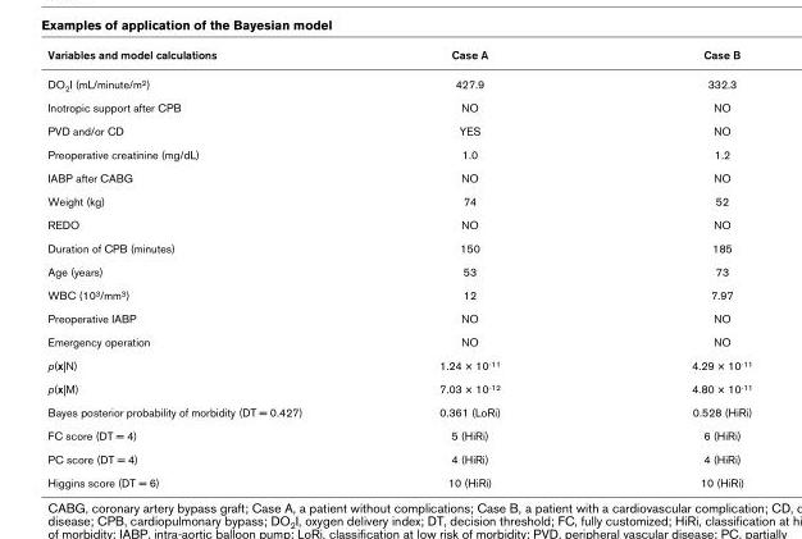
<table><thead><tr><td>Variables and model calculations</td><td>Case A</td><td>Case B</td></tr></thead><tbody><tr><td>DO2I (mL/minute/m2)</td><td>427.9</td><td>332.3</td></tr><tr><td>Inotropic support after CPB</td><td>NO</td><td>NO</td></tr><tr><td>PVD and/or CD</td><td>YES</td><td>NO</td></tr><tr><td>Preoperative creatinine (mg/dL)</td><td>1.0</td><td>1.2</td></tr><tr><td>IABP after CABG</td><td>NO</td><td>NO</td></tr><tr><td>Weight (kg)</td><td>74</td><td>52</td></tr><tr><td>REDO</td><td>NO</td><td>NO</td></tr><tr><td>Duration of CPB (minutes)</td><td>150</td><td>185</td></tr><tr><td>Age (years)</td><td>53</td><td>73</td></tr><tr><td>WBC (103/mm3)</td><td>12</td><td>7.97</td></tr><tr><td>Preoperative IABP</td><td>NO</td><td>NO</td></tr><tr><td>Emergency operation</td><td>NO</td><td>NO</td></tr><tr><td>p(x|N)</td><td>1.24 × 10-11</td><td>4.29 × 10-11</td></tr><tr><td>p(x|M)</td><td>7.03 × 10-12</td><td>4.80 × 10-11</td></tr><tr><td>Bayes posterior probability of morbidity (DT = 0.427)</td><td>0.361 (LoRi)</td><td>0.528 (HiRi)</td></tr><tr><td>FC score (DT = 4)</td><td>5 (HiRi)</td><td>6 (HiRi)</td></tr><tr><td>PC score (DT = 4)</td><td>4 (HiRi)</td><td>4 (HiRi)</td></tr><tr><td>Higgins score (DT = 6)</td><td>10 (HiRi)</td><td>10 (HiRi)</td></tr></tbody></table>